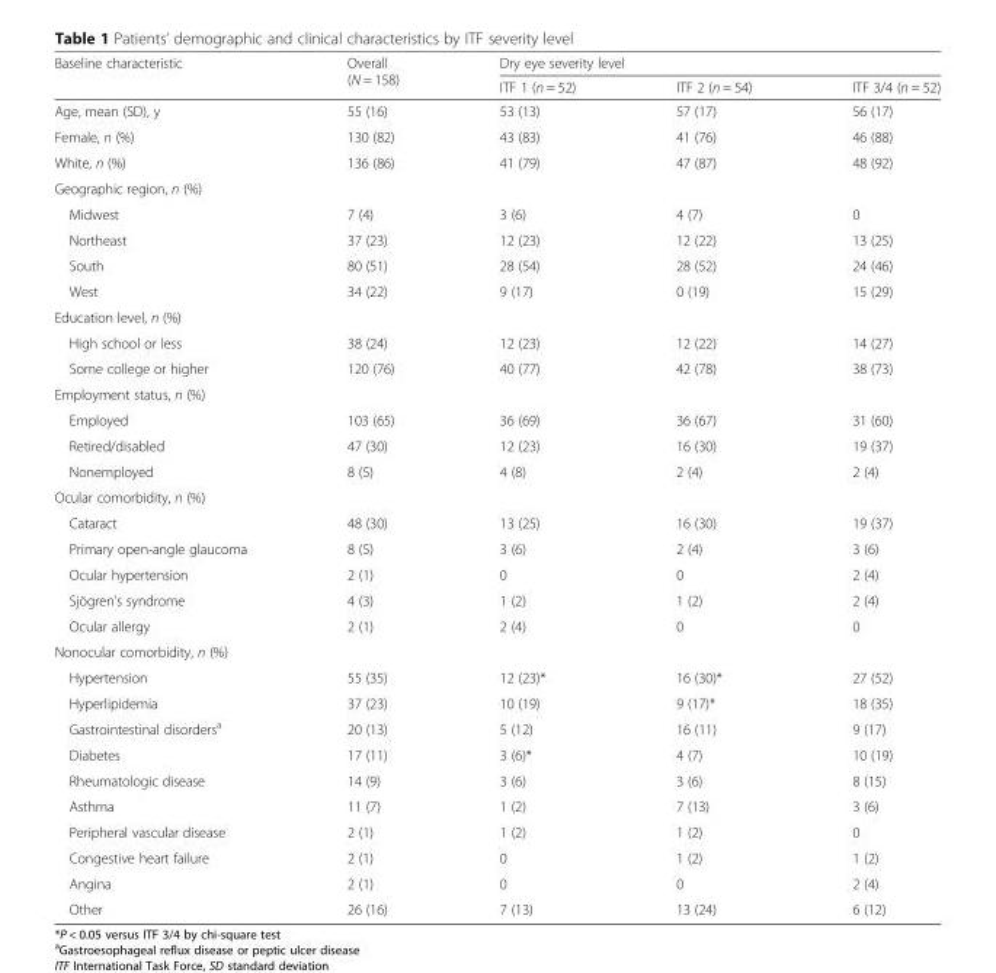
<table><thead><tr><td rowspan="2">Baseline characteristic</td><td rowspan="2">Overall (N = 158)</td><td colspan="3">Dry eye severity level</td></tr><tr><td>ITF 1 (n = 52)</td><td>ITF 2 (n = 54)</td><td>ITF 3/4 (n = 52)</td></tr></thead><tbody><tr><td>Age, mean (SD), y</td><td>55 (16)</td><td>53 (13)</td><td>57 (17)</td><td>56 (17)</td></tr><tr><td>Female, n (%)</td><td>130 (82)</td><td>43 (83)</td><td>41 (76)</td><td>46 (88)</td></tr><tr><td>White, n (%)</td><td>136 (86)</td><td>41 (79)</td><td>47 (87)</td><td>48 (92)</td></tr><tr><td colspan="5">Geographic region, n (%)</td></tr><tr><td>Midwest</td><td>7 (4)</td><td>3 (6)</td><td>4 (7)</td><td>0</td></tr><tr><td>Northeast</td><td>37 (23)</td><td>12 (23)</td><td>12 (22)</td><td>13 (25)</td></tr><tr><td>South</td><td>80 (51)</td><td>28 (54)</td><td>28 (52)</td><td>24 (46)</td></tr><tr><td>West</td><td>34 (22)</td><td>9 (17)</td><td>0 (19)</td><td>15 (29)</td></tr><tr><td colspan="5">Education level, n (%)</td></tr><tr><td>High school or less</td><td>38 (24)</td><td>12 (23)</td><td>12 (22)</td><td>14 (27)</td></tr><tr><td>Some college or higher</td><td>120 (76)</td><td>40 (77)</td><td>42 (78)</td><td>38 (73)</td></tr><tr><td colspan="5">Employment status, n (%)</td></tr><tr><td>Employed</td><td>103 (65)</td><td>36 (69)</td><td>36 (67)</td><td>31 (60)</td></tr><tr><td>Retired/disabled</td><td>47 (30)</td><td>12 (23)</td><td>16 (30)</td><td>19 (37)</td></tr><tr><td>Nonemployed</td><td>8 (5)</td><td>4 (8)</td><td>2 (4)</td><td>2 (4)</td></tr><tr><td colspan="5">Ocular comorbidity, n (%)</td></tr><tr><td>Cataract</td><td>48 (30)</td><td>13 (25)</td><td>16 (30)</td><td>19 (37)</td></tr><tr><td>Primary open-angle glaucoma</td><td>8 (5)</td><td>3 (6)</td><td>2 (4)</td><td>3 (6)</td></tr><tr><td>Ocular hypertension</td><td>2 (1)</td><td>0</td><td>0</td><td>2 (4)</td></tr><tr><td>Sjögren’s syndrome</td><td>4 (3)</td><td>1 (2)</td><td>1 (2)</td><td>2 (4)</td></tr><tr><td>Ocular allergy</td><td>2 (1)</td><td>2 (4)</td><td>0</td><td>0</td></tr><tr><td colspan="5">Nonocular comorbidity, n (%)</td></tr><tr><td>Hypertension</td><td>55 (35)</td><td>12 (23)*</td><td>16 (30)*</td><td>27 (52)</td></tr><tr><td>Hyperlipidemia</td><td>37 (23)</td><td>10 (19)</td><td>9 (17)*</td><td>18 (35)</td></tr><tr><td>Gastrointestinal disorders<sup>a</sup></td><td>20 (13)</td><td>5 (12)</td><td>16 (11)</td><td>9 (17)</td></tr><tr><td>Diabetes</td><td>17 (11)</td><td>3 (6)*</td><td>4 (7)</td><td>10 (19)</td></tr><tr><td>Rheumatologic disease</td><td>14 (9)</td><td>3 (6)</td><td>3 (6)</td><td>8 (15)</td></tr><tr><td>Asthma</td><td>11 (7)</td><td>1 (2)</td><td>7 (13)</td><td>3 (6)</td></tr><tr><td>Peripheral vascular disease</td><td>2 (1)</td><td>1 (2)</td><td>1 (2)</td><td>0</td></tr><tr><td>Congestive heart failure</td><td>2 (1)</td><td>0</td><td>1 (2)</td><td>1 (2)</td></tr><tr><td>Angina</td><td>2 (1)</td><td>0</td><td>0</td><td>2 (4)</td></tr><tr><td>Other</td><td>26 (16)</td><td>7 (13)</td><td>13 (24)</td><td>6 (12)</td></tr></tbody></table>